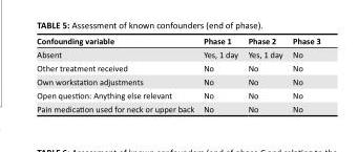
<table><thead><tr><td>Confounding variable</td><td>Phase 1</td><td>Phase 2</td><td>Phase 3</td></tr></thead><tbody><tr><td>Absent</td><td>Yes, 1 day</td><td>Yes, 1 day</td><td>No</td></tr><tr><td>Other treatment received</td><td>No</td><td>No</td><td>No</td></tr><tr><td>Own workstation adjustments</td><td>No</td><td>No</td><td>No</td></tr><tr><td>Open question: Anything else relevant</td><td>No</td><td>No</td><td>No</td></tr><tr><td>Pain medication used for neck or upper back</td><td>No</td><td>No</td><td>No</td></tr></tbody></table>